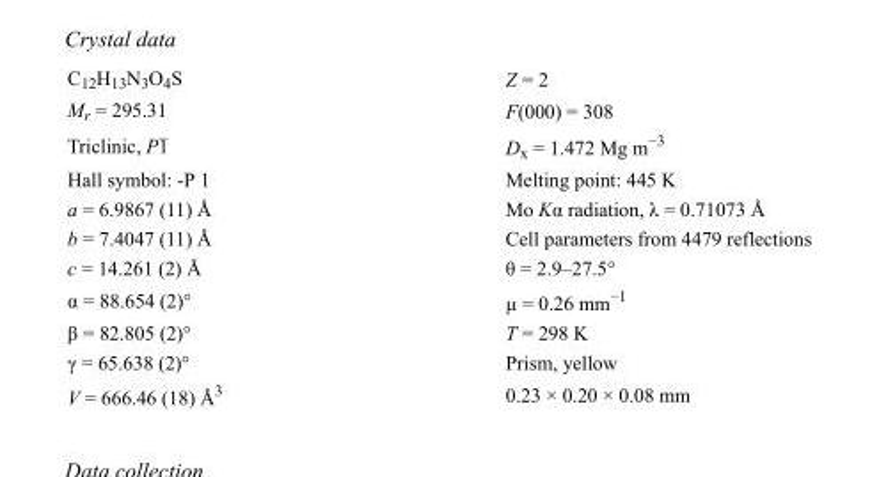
<table><tbody><tr><td>C<sub>12</sub>H<sub>13</sub>N<sub>3</sub>O<sub>4</sub>S</td><td>Z = 2</td></tr><tr><td>M<sub>r</sub> = 295.31</td><td>F(000) = 308</td></tr><tr><td>Triclinic, P1</td><td>D<sub>x</sub> = 1.472 Mg m<sup>−3</sup></td></tr><tr><td>Hall symbol: -P 1</td><td>Melting point: 445 K</td></tr><tr><td>a = 6.9867 (11) Å</td><td>Mo Kα radiation, λ = 0.71073 Å</td></tr><tr><td>b = 7.4047 (11) Å</td><td>Cell parameters from 4479 reflections</td></tr><tr><td>c = 14.261 (2) Å</td><td>θ = 2.9–27.5°</td></tr><tr><td>α = 88.654 (2)°</td><td>µ = 0.26 mm<sup>−1</sup></td></tr><tr><td>β = 82.805 (2)°</td><td>T = 298 K</td></tr><tr><td>γ = 65.638 (2)°</td><td>Prism, yellow</td></tr><tr><td>V = 666.46 (18) Å<sup>3</sup></td><td>0.23 × 0.20 × 0.08 mm</td></tr></tbody></table>